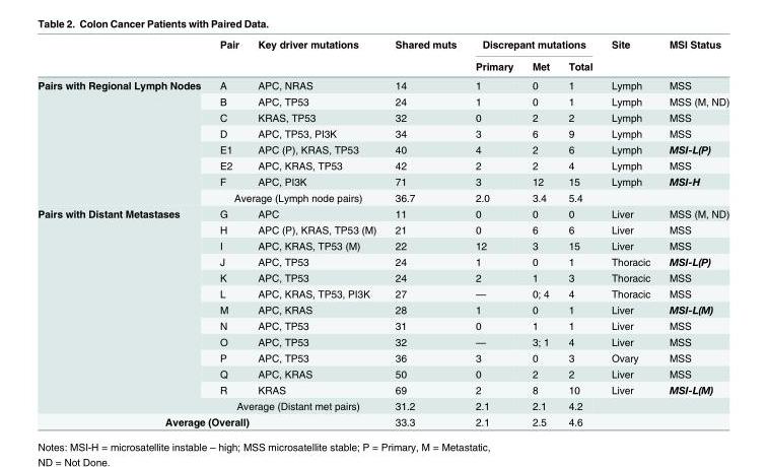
<table><thead><tr><td rowspan="2"></td><td rowspan="2">Pair</td><td rowspan="2">Key driver mutations</td><td rowspan="2">Shared muts</td><td colspan="3">Discrepant mutations</td><td rowspan="2">Site</td><td rowspan="2">MSI Status</td></tr><tr><td>Primary</td><td>Met</td><td>Total</td></tr></thead><tbody><tr><td rowspan="8">Pairs with Regional Lymph Nodes</td><td>A</td><td>APC, NRAS</td><td>14</td><td>1</td><td>0</td><td>1</td><td>Lymph</td><td>MSS</td></tr><tr><td>B</td><td>APC, TP53</td><td>24</td><td>1</td><td>0</td><td>1</td><td>Lymph</td><td>MSS (M, ND)</td></tr><tr><td>C</td><td>KRAS, TP53</td><td>32</td><td>0</td><td>2</td><td>2</td><td>Lymph</td><td>MSS</td></tr><tr><td>D</td><td>APC, TP53, PI3K</td><td>34</td><td>3</td><td>6</td><td>9</td><td>Lymph</td><td>MSS</td></tr><tr><td>E1</td><td>APC (P), KRAS, TP53</td><td>40</td><td>4</td><td>2</td><td>6</td><td>Lymph</td><td>MSI-L(P)</td></tr><tr><td>E2</td><td>APC, KRAS, TP53</td><td>42</td><td>2</td><td>2</td><td>4</td><td>Lymph</td><td>MSS</td></tr><tr><td>F</td><td>APC, PI3K</td><td>71</td><td>3</td><td>12</td><td>15</td><td>Lymph</td><td>MSI-H</td></tr><tr><td colspan="2">Average (Lymph node pairs)</td><td>36.7</td><td>2.0</td><td>3.4</td><td>5.4</td><td colspan="2"></td></tr><tr><td rowspan="13">Pairs with Distant Metastases</td><td>G</td><td>APC</td><td>11</td><td>0</td><td>0</td><td>0</td><td>Liver</td><td>MSS (M, ND)</td></tr><tr><td>H</td><td>APC (P), KRAS, TP53 (M)</td><td>21</td><td>0</td><td>6</td><td>6</td><td>Liver</td><td>MSS</td></tr><tr><td>I</td><td>APC, KRAS, TP53 (M)</td><td>22</td><td>12</td><td>3</td><td>15</td><td>Liver</td><td>MSS</td></tr><tr><td>J</td><td>APC, TP53</td><td>24</td><td>1</td><td>0</td><td>1</td><td>Thoracic</td><td>MSI-L(P)</td></tr><tr><td>K</td><td>APC, TP53</td><td>24</td><td>2</td><td>1</td><td>3</td><td>Thoracic</td><td>MSS</td></tr><tr><td>L</td><td>APC, KRAS, TP53, PI3K</td><td>27</td><td>—</td><td>0; 4</td><td>4</td><td>Thoracic</td><td>MSS</td></tr><tr><td>M</td><td>APC, KRAS</td><td>28</td><td>1</td><td>0</td><td>1</td><td>Liver</td><td>MSI-L(M)</td></tr><tr><td>N</td><td>APC, TP53</td><td>31</td><td>0</td><td>1</td><td>1</td><td>Liver</td><td>MSS</td></tr><tr><td>O</td><td>APC, TP53</td><td>32</td><td>—</td><td>3; 1</td><td>4</td><td>Liver</td><td>MSS</td></tr><tr><td>P</td><td>APC, TP53</td><td>36</td><td>3</td><td>0</td><td>3</td><td>Ovary</td><td>MSS</td></tr><tr><td>Q</td><td>APC, KRAS</td><td>50</td><td>0</td><td>2</td><td>2</td><td>Liver</td><td>MSS</td></tr><tr><td>R</td><td>KRAS</td><td>69</td><td>2</td><td>8</td><td>10</td><td>Liver</td><td>MSI-L(M)</td></tr><tr><td colspan="2">Average (Distant met pairs)</td><td>31.2</td><td>2.1</td><td>2.1</td><td>4.2</td><td colspan="2"></td></tr><tr><td colspan="3">Average (Overall)</td><td>33.3</td><td>2.1</td><td>2.5</td><td>4.6</td><td colspan="2"></td></tr></tbody></table>